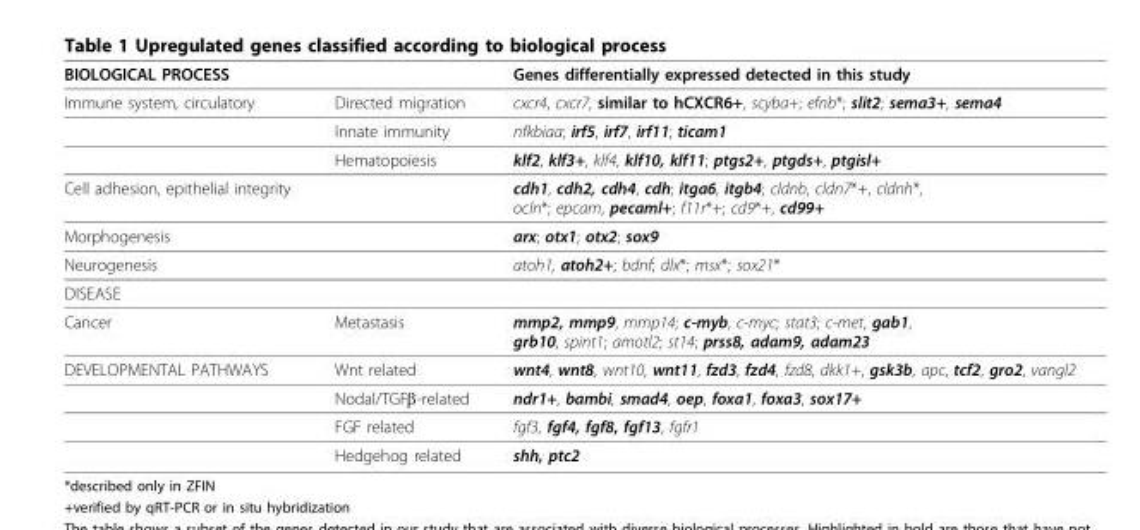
<table><thead><tr><td>BIOLOGICAL PROCESS</td><td></td><td>Genes differentially expressed detected in this study</td></tr></thead><tbody><tr><td rowspan="3">Immune system, circulatory</td><td>Directed migration</td><td>cxcr4, cxcr7, similar to hCXCR6+, scyba+; efnb*; slit2; sema3+, sema4</td></tr><tr><td>Innate immunity</td><td>nfkbiaa; irf5, irf7, irf11; ticam1</td></tr><tr><td>Hematopoiesis</td><td>klf2, klf3+, klf4, klf10, klf11; ptgs2+, ptgds+, ptgisl+</td></tr><tr><td>Cell adhesion, epithelial integrity</td><td></td><td>cdh1, cdh2, cdh4, cdh; itga6, itgb4; cldnb, cldn7*+, cldnh*, ocln*; epcam, pecaml+; f11r*+; cd9*+, cd99+</td></tr><tr><td>Morphogenesis</td><td></td><td>arx; otx1; otx2; sox9</td></tr><tr><td>Neurogenesis</td><td></td><td>atoh1, atoh2+; bdnf; dlx*; msx*; sox21*</td></tr><tr><td colspan="3">DISEASE</td></tr><tr><td>Cancer</td><td>Metastasis</td><td>mmp2, mmp9, mmp14; c-myb, c-myc; stat3; c-met, gab1, grb10, spint1; amotl2; st14; prss8, adam9, adam23</td></tr><tr><td rowspan="4">DEVELOPMENTAL PATHWAYS</td><td>Wnt related</td><td>wnt4, wnt8, wnt10, wnt11, fzd3, fzd4, fzd8, dkk1+, gsk3b, apc, tcf2, gro2, vangl2</td></tr><tr><td>Nodal/TGFβ-related</td><td>ndr1+, bambi, smad4, oep, foxa1, foxa3, sox17+</td></tr><tr><td>FGF related</td><td>fgf3, fgf4, fgf8, fgf13, fgfr1</td></tr><tr><td>Hedgehog related</td><td>shh, ptc2</td></tr></tbody></table>